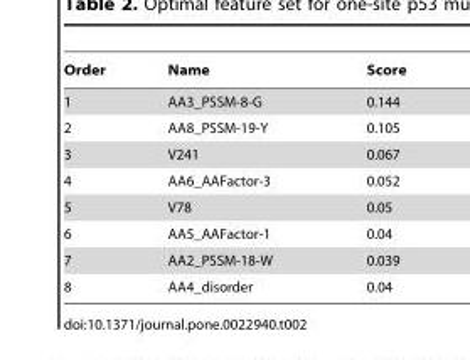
<table><thead><tr><td>Order</td><td>Name</td><td>Score</td></tr></thead><tbody><tr><td>1</td><td>AA3_PSSM-8-G</td><td>0.144</td></tr><tr><td>2</td><td>AA8_PSSM-19-Y</td><td>0.105</td></tr><tr><td>3</td><td>V241</td><td>0.067</td></tr><tr><td>4</td><td>AA6_AAFactor-3</td><td>0.052</td></tr><tr><td>5</td><td>V78</td><td>0.05</td></tr><tr><td>6</td><td>AA5_AAFactor-1</td><td>0.04</td></tr><tr><td>7</td><td>AA2_PSSM-18-W</td><td>0.039</td></tr><tr><td>8</td><td>AA4_disorder</td><td>0.04</td></tr></tbody></table>